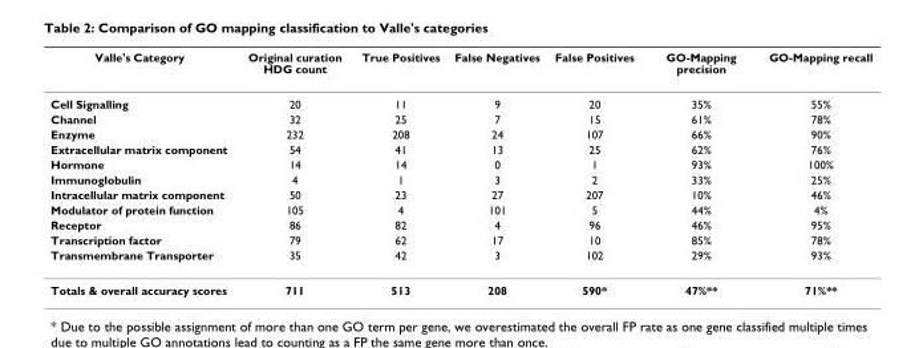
<table><thead><tr><td>Valle&#x27;s Category</td><td>Original curation HDG count</td><td>True Positives</td><td>False Negatives</td><td>False Positives</td><td>GO-Mapping precision</td><td>GO-Mapping recall</td></tr></thead><tbody><tr><td>Cell Signalling</td><td>20</td><td>11</td><td>9</td><td>20</td><td>35%</td><td>55%</td></tr><tr><td>Channel</td><td>32</td><td>25</td><td>7</td><td>15</td><td>61%</td><td>78%</td></tr><tr><td>Enzyme</td><td>232</td><td>208</td><td>24</td><td>107</td><td>66%</td><td>90%</td></tr><tr><td>Extracellular matrix component</td><td>54</td><td>41</td><td>13</td><td>25</td><td>62%</td><td>76%</td></tr><tr><td>Hormone</td><td>14</td><td>14</td><td>0</td><td>1</td><td>93%</td><td>100%</td></tr><tr><td>Immunoglobulin</td><td>4</td><td>1</td><td>3</td><td>2</td><td>33%</td><td>25%</td></tr><tr><td>Intracellular matrix component</td><td>50</td><td>23</td><td>27</td><td>207</td><td>10%</td><td>46%</td></tr><tr><td>Modulator of protein function</td><td>105</td><td>4</td><td>101</td><td>5</td><td>44%</td><td>4%</td></tr><tr><td>Receptor</td><td>86</td><td>82</td><td>4</td><td>96</td><td>46%</td><td>95%</td></tr><tr><td>Transcription factor</td><td>79</td><td>62</td><td>17</td><td>10</td><td>85%</td><td>78%</td></tr><tr><td>Transmembrane Transporter</td><td>35</td><td>42</td><td>3</td><td>102</td><td>29%</td><td>93%</td></tr><tr><td>Totals &amp; overall accuracy scores</td><td>711</td><td>513</td><td>208</td><td>590*</td><td>47%**</td><td>71%**</td></tr></tbody></table>